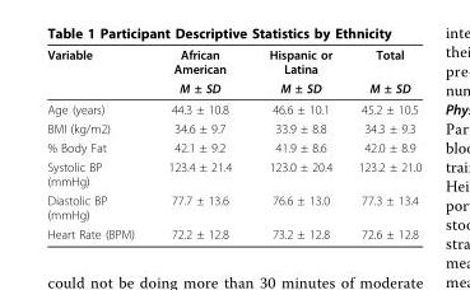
<table><thead><tr><td rowspan="2">Variable</td><td rowspan="2">African American M ± SD</td><td rowspan="2">Hispanic or Latina M ± SD</td><td rowspan="2">Total M ± SD</td></tr><tr></tr></thead><tbody><tr><td>Age (years)</td><td>44.3 ± 10.8</td><td>46.6 ± 10.1</td><td>45.2 ± 10.5</td></tr><tr><td>BMI (kg/m2)</td><td>34.6 ± 9.7</td><td>33.9 ± 8.8</td><td>34.3 ± 9.3</td></tr><tr><td>% Body Fat</td><td>42.1 ± 9.2</td><td>41.9 ± 8.6</td><td>42.0 ± 8.9</td></tr><tr><td>Systolic BP (mmHg)</td><td>123.4 ± 21.4</td><td>123.0 ± 20.4</td><td>123.2 ± 21.0</td></tr><tr><td>Diastolic BP (mmHg)</td><td>77.7 ± 13.6</td><td>76.6 ± 13.0</td><td>77.3 ± 13.4</td></tr><tr><td>Heart Rate (BPM)</td><td>72.2 ± 12.8</td><td>73.2 ± 12.8</td><td>72.6 ± 12.8</td></tr></tbody></table>